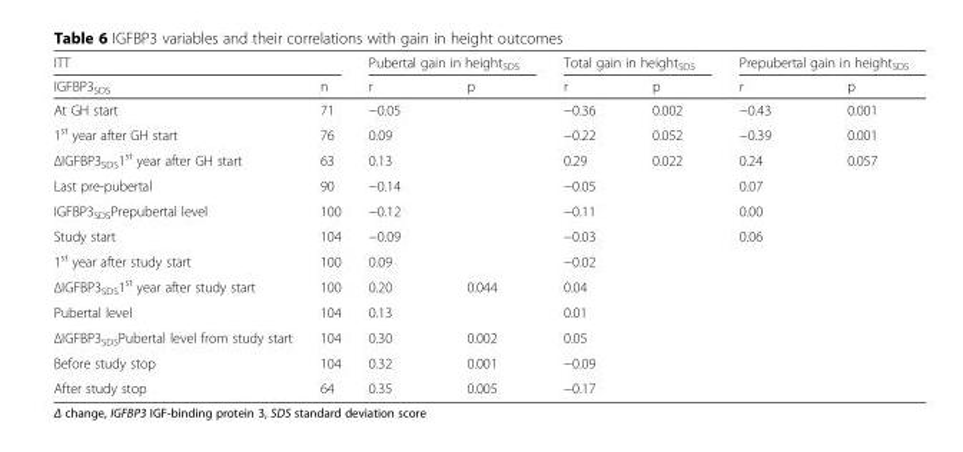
<table><thead><tr><td colspan="2">ITT</td><td colspan="2">Pubertal gain in height<sub>SDS</sub></td><td colspan="2">Total gain in height<sub>SDS</sub></td><td colspan="2">Prepubertal gain in height<sub>SDS</sub></td></tr><tr><td>IGFBP3<sub>SDS</sub></td><td>n</td><td>r</td><td>p</td><td>r</td><td>p</td><td>r</td><td>p</td></tr></thead><tbody><tr><td>At GH start</td><td>71</td><td>−0.05</td><td></td><td>−0.36</td><td>0.002</td><td>−0.43</td><td>0.001</td></tr><tr><td>1<sup>st</sup> year after GH start</td><td>76</td><td>0.09</td><td></td><td>−0.22</td><td>0.052</td><td>−0.39</td><td>0.001</td></tr><tr><td>ΔIGFBP3SDS1st year after GH start</td><td>63</td><td>0.13</td><td></td><td>0.29</td><td>0.022</td><td>0.24</td><td>0.057</td></tr><tr><td>Last pre-pubertal</td><td>90</td><td>−0.14</td><td></td><td>−0.05</td><td></td><td>0.07</td><td></td></tr><tr><td>IGFBP3<sub>SDS</sub>Prepubertal level</td><td>100</td><td>−0.12</td><td></td><td>−0.11</td><td></td><td>0.00</td><td></td></tr><tr><td>Study start</td><td>104</td><td>−0.09</td><td></td><td>−0.03</td><td></td><td>0.06</td><td></td></tr><tr><td>1<sup>st</sup> year after study start</td><td>100</td><td>0.09</td><td></td><td>−0.02</td><td></td><td></td><td></td></tr><tr><td>ΔIGFBP3SDS1st year after study start</td><td>100</td><td>0.20</td><td>0.044</td><td>0.04</td><td></td><td></td><td></td></tr><tr><td>Pubertal level</td><td>104</td><td>0.13</td><td></td><td>0.01</td><td></td><td></td><td></td></tr><tr><td>ΔIGFBP3SDSPubertal level from study start</td><td>104</td><td>0.30</td><td>0.002</td><td>0.05</td><td></td><td></td><td></td></tr><tr><td>Before study stop</td><td>104</td><td>0.32</td><td>0.001</td><td>−0.09</td><td></td><td></td><td></td></tr><tr><td>After study stop</td><td>64</td><td>0.35</td><td>0.005</td><td>−0.17</td><td></td><td></td><td></td></tr></tbody></table>